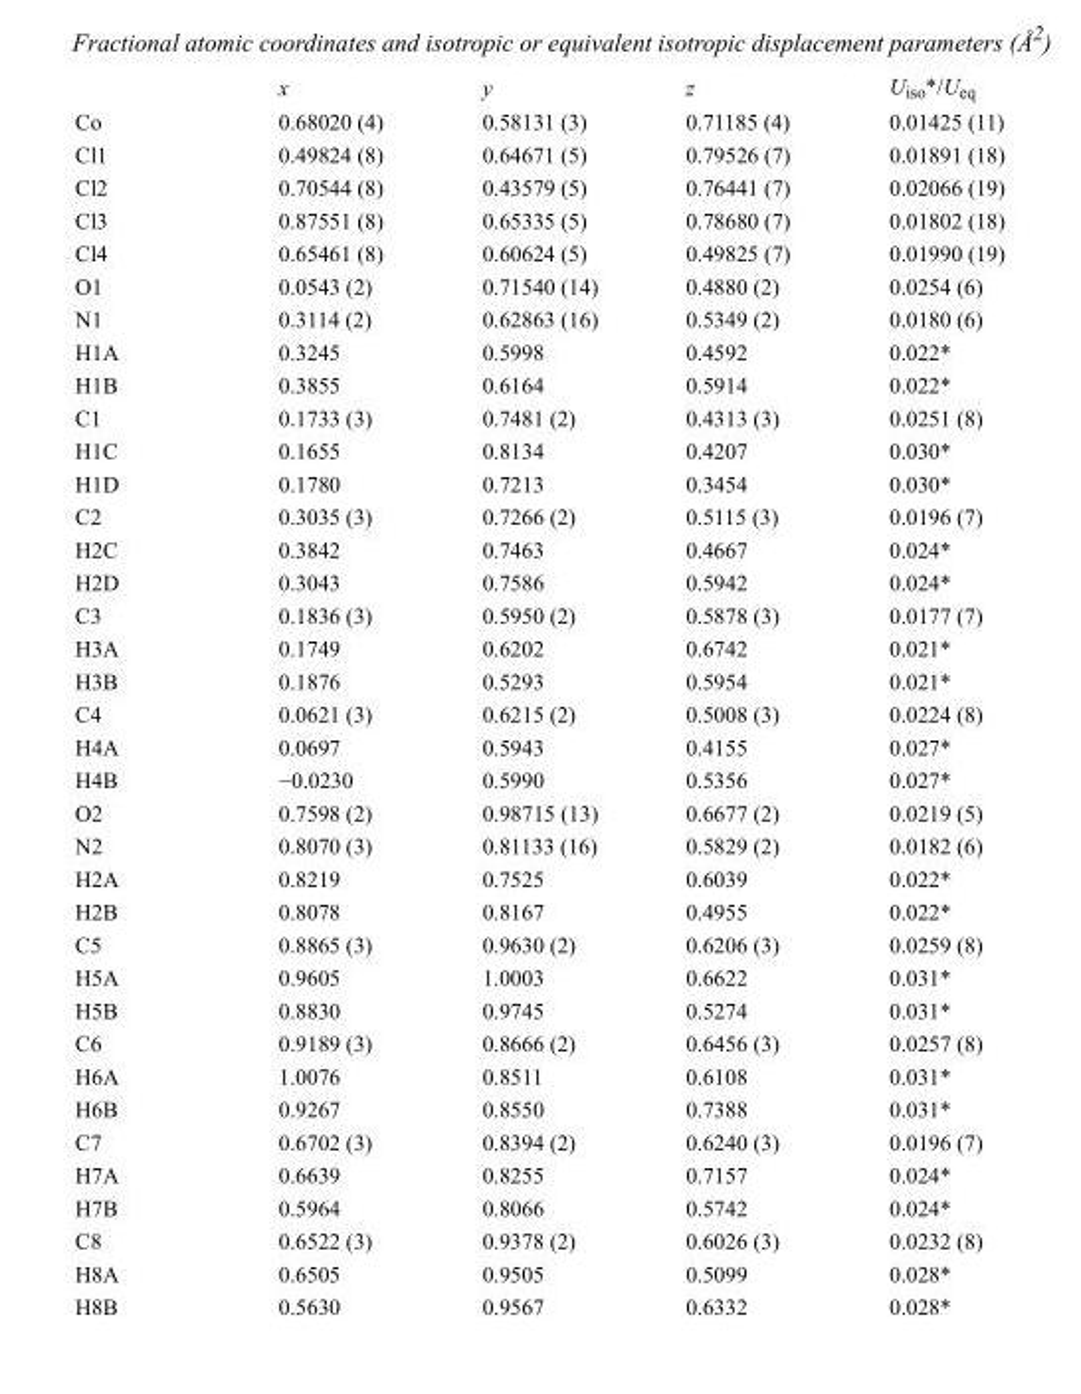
<table><thead><tr><td></td><td>x</td><td>y</td><td>z</td><td>U<sub>iso</sub>*/U<sub>eq</sub></td></tr></thead><tbody><tr><td>Co</td><td>0.68020 (4)</td><td>0.58131 (3)</td><td>0.71185 (4)</td><td>0.01425 (11)</td></tr><tr><td>Cl1</td><td>0.49824 (8)</td><td>0.64671 (5)</td><td>0.79526 (7)</td><td>0.01891 (18)</td></tr><tr><td>Cl2</td><td>0.70544 (8)</td><td>0.43579 (5)</td><td>0.76441 (7)</td><td>0.02066 (19)</td></tr><tr><td>Cl3</td><td>0.87551 (8)</td><td>0.65335 (5)</td><td>0.78680 (7)</td><td>0.01802 (18)</td></tr><tr><td>Cl4</td><td>0.65461 (8)</td><td>0.60624 (5)</td><td>0.49825 (7)</td><td>0.01990 (19)</td></tr><tr><td>O1</td><td>0.0543 (2)</td><td>0.71540 (14)</td><td>0.4880 (2)</td><td>0.0254 (6)</td></tr><tr><td>N1</td><td>0.3114 (2)</td><td>0.62863 (16)</td><td>0.5349 (2)</td><td>0.0180 (6)</td></tr><tr><td>H1A</td><td>0.3245</td><td>0.5998</td><td>0.4592</td><td>0.022*</td></tr><tr><td>H1B</td><td>0.3855</td><td>0.6164</td><td>0.5914</td><td>0.022*</td></tr><tr><td>C1</td><td>0.1733 (3)</td><td>0.7481 (2)</td><td>0.4313 (3)</td><td>0.0251 (8)</td></tr><tr><td>H1C</td><td>0.1655</td><td>0.8134</td><td>0.4207</td><td>0.030*</td></tr><tr><td>H1D</td><td>0.1780</td><td>0.7213</td><td>0.3454</td><td>0.030*</td></tr><tr><td>C2</td><td>0.3035 (3)</td><td>0.7266 (2)</td><td>0.5115 (3)</td><td>0.0196 (7)</td></tr><tr><td>H2C</td><td>0.3842</td><td>0.7463</td><td>0.4667</td><td>0.024*</td></tr><tr><td>H2D</td><td>0.3043</td><td>0.7586</td><td>0.5942</td><td>0.024*</td></tr><tr><td>C3</td><td>0.1836 (3)</td><td>0.5950 (2)</td><td>0.5878 (3)</td><td>0.0177 (7)</td></tr><tr><td>H3A</td><td>0.1749</td><td>0.6202</td><td>0.6742</td><td>0.021*</td></tr><tr><td>H3B</td><td>0.1876</td><td>0.5293</td><td>0.5954</td><td>0.021*</td></tr><tr><td>C4</td><td>0.0621 (3)</td><td>0.6215 (2)</td><td>0.5008 (3)</td><td>0.0224 (8)</td></tr><tr><td>H4A</td><td>0.0697</td><td>0.5943</td><td>0.4155</td><td>0.027*</td></tr><tr><td>H4B</td><td>−0.0230</td><td>0.5990</td><td>0.5356</td><td>0.027*</td></tr><tr><td>O2</td><td>0.7598 (2)</td><td>0.98715 (13)</td><td>0.6677 (2)</td><td>0.0219 (5)</td></tr><tr><td>N2</td><td>0.8070 (3)</td><td>0.81133 (16)</td><td>0.5829 (2)</td><td>0.0182 (6)</td></tr><tr><td>H2A</td><td>0.8219</td><td>0.7525</td><td>0.6039</td><td>0.022*</td></tr><tr><td>H2B</td><td>0.8078</td><td>0.8167</td><td>0.4955</td><td>0.022*</td></tr><tr><td>C5</td><td>0.8865 (3)</td><td>0.9630 (2)</td><td>0.6206 (3)</td><td>0.0259 (8)</td></tr><tr><td>H5A</td><td>0.9605</td><td>1.0003</td><td>0.6622</td><td>0.031*</td></tr><tr><td>H5B</td><td>0.8830</td><td>0.9745</td><td>0.5274</td><td>0.031*</td></tr><tr><td>C6</td><td>0.9189 (3)</td><td>0.8666 (2)</td><td>0.6456 (3)</td><td>0.0257 (8)</td></tr><tr><td>H6A</td><td>1.0076</td><td>0.8511</td><td>0.6108</td><td>0.031*</td></tr><tr><td>H6B</td><td>0.9267</td><td>0.8550</td><td>0.7388</td><td>0.031*</td></tr><tr><td>C7</td><td>0.6702 (3)</td><td>0.8394 (2)</td><td>0.6240 (3)</td><td>0.0196 (7)</td></tr><tr><td>H7A</td><td>0.6639</td><td>0.8255</td><td>0.7157</td><td>0.024*</td></tr><tr><td>H7B</td><td>0.5964</td><td>0.8066</td><td>0.5742</td><td>0.024*</td></tr><tr><td>C8</td><td>0.6522 (3)</td><td>0.9378 (2)</td><td>0.6026 (3)</td><td>0.0232 (8)</td></tr><tr><td>H8A</td><td>0.6505</td><td>0.9505</td><td>0.5099</td><td>0.028*</td></tr><tr><td>H8B</td><td>0.5630</td><td>0.9567</td><td>0.6332</td><td>0.028*</td></tr></tbody></table>